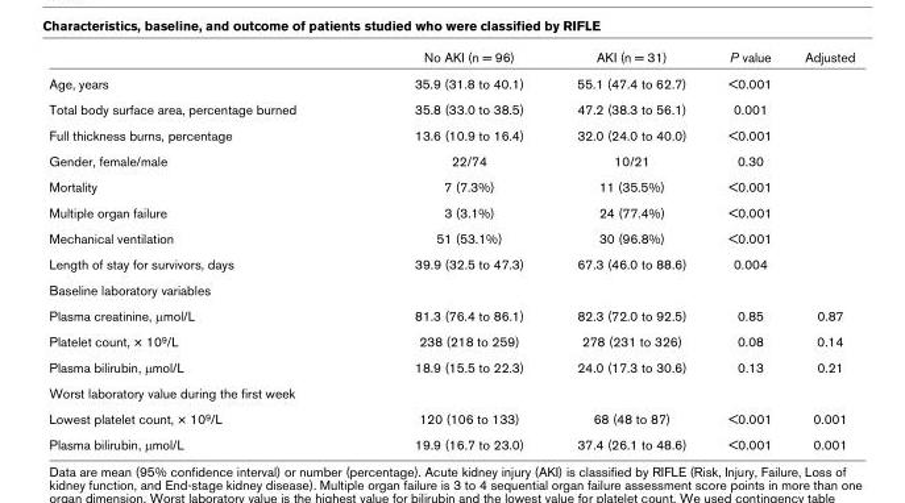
<table><thead><tr><td></td><td>No AKI (n = 96)</td><td>AKI (n = 31)</td><td>P value</td><td>Adjusted</td></tr></thead><tbody><tr><td>Age, years</td><td>35.9 (31.8 to 40.1)</td><td>55.1 (47.4 to 62.7)</td><td>&lt;0.001</td><td></td></tr><tr><td>Total body surface area, percentage burned</td><td>35.8 (33.0 to 38.5)</td><td>47.2 (38.3 to 56.1)</td><td>0.001</td><td></td></tr><tr><td>Full thickness burns, percentage</td><td>13.6 (10.9 to 16.4)</td><td>32.0 (24.0 to 40.0)</td><td>&lt;0.001</td><td></td></tr><tr><td>Gender, female/male</td><td>22/74</td><td>10/21</td><td>0.30</td><td></td></tr><tr><td>Mortality</td><td>7 (7.3%)</td><td>11 (35.5%)</td><td>&lt;0.001</td><td></td></tr><tr><td>Multiple organ failure</td><td>3 (3.1%)</td><td>24 (77.4%)</td><td>&lt;0.001</td><td></td></tr><tr><td>Mechanical ventilation</td><td>51 (53.1%)</td><td>30 (96.8%)</td><td>&lt;0.001</td><td></td></tr><tr><td>Length of stay for survivors, days</td><td>39.9 (32.5 to 47.3)</td><td>67.3 (46.0 to 88.6)</td><td>0.004</td><td></td></tr><tr><td colspan="5">Baseline laboratory variables</td></tr><tr><td>Plasma creatinine, μmol/L</td><td>81.3 (76.4 to 86.1)</td><td>82.3 (72.0 to 92.5)</td><td>0.85</td><td>0.87</td></tr><tr><td>Platelet count, × 10<sup>9</sup>/L</td><td>238 (218 to 259)</td><td>278 (231 to 326)</td><td>0.08</td><td>0.14</td></tr><tr><td>Plasma bilirubin, μmol/L</td><td>18.9 (15.5 to 22.3)</td><td>24.0 (17.3 to 30.6)</td><td>0.13</td><td>0.21</td></tr><tr><td colspan="5">Worst laboratory value during the first week</td></tr><tr><td>Lowest platelet count, × 10<sup>9</sup>/L</td><td>120 (106 to 133)</td><td>68 (48 to 87)</td><td>&lt;0.001</td><td>0.001</td></tr><tr><td>Plasma bilirubin, μmol/L</td><td>19.9 (16.7 to 23.0)</td><td>37.4 (26.1 to 48.6)</td><td>&lt;0.001</td><td>0.001</td></tr></tbody></table>